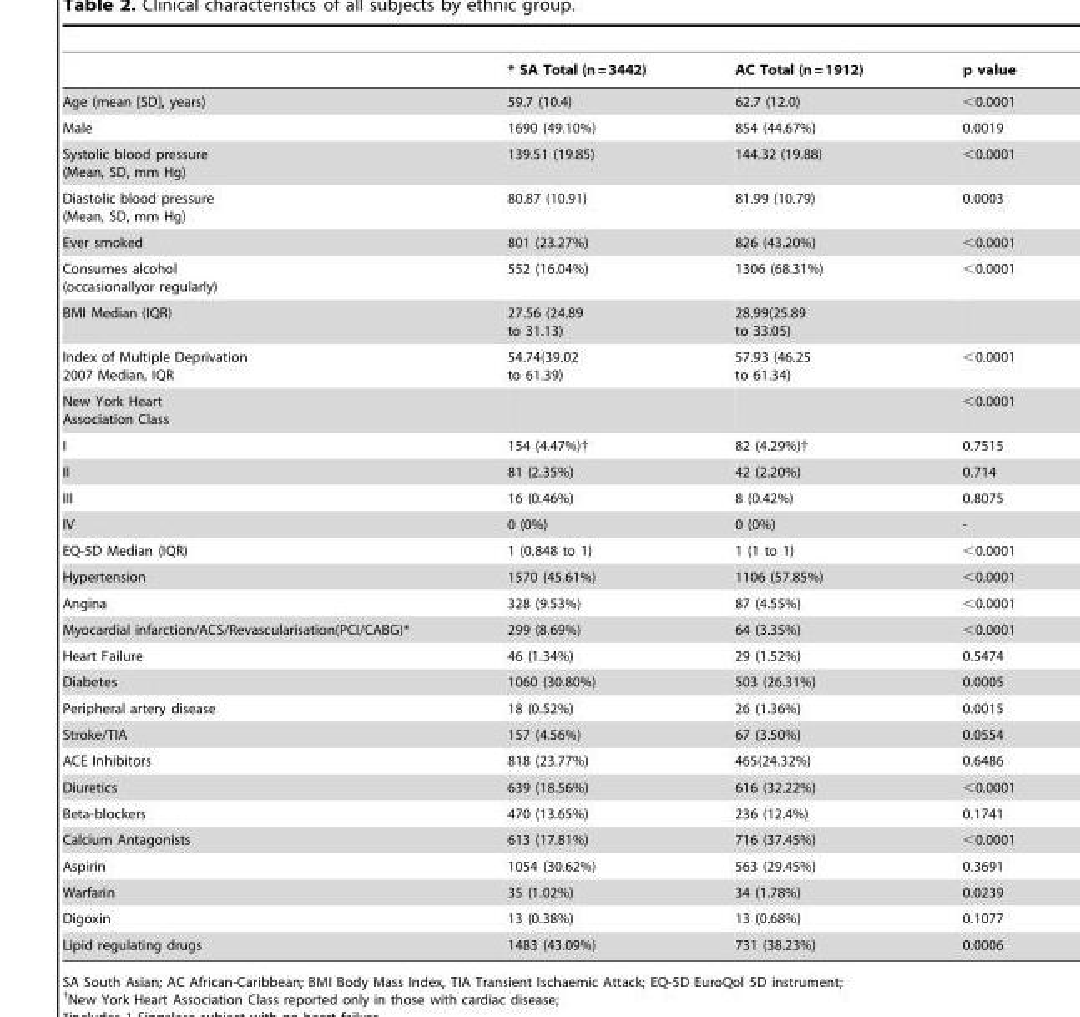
<table><thead><tr><td></td><td>* SA Total (n=3442)</td><td>AC Total (n=1912)</td><td>p value</td></tr></thead><tbody><tr><td>Age (mean [SD], years)</td><td>59.7 (10.4)</td><td>62.7 (12.0)</td><td>&lt;0.0001</td></tr><tr><td>Male</td><td>1690 (49.10%)</td><td>854 (44.67%)</td><td>0.0019</td></tr><tr><td>Systolic blood pressure (Mean, SD, mm Hg)</td><td>139.51 (19.85)</td><td>144.32 (19.88)</td><td>&lt;0.0001</td></tr><tr><td>Diastolic blood pressure (Mean, SD, mm Hg)</td><td>80.87 (10.91)</td><td>81.99 (10.79)</td><td>0.0003</td></tr><tr><td>Ever smoked</td><td>801 (23.27%)</td><td>826 (43.20%)</td><td>&lt;0.0001</td></tr><tr><td>Consumes alcohol (occasionallyor regularly)</td><td>552 (16.04%)</td><td>1306 (68.31%)</td><td>&lt;0.0001</td></tr><tr><td>BMI Median (IQR)</td><td>27.56 (24.89 to 31.13)</td><td>28.99(25.89 to 33.05)</td><td></td></tr><tr><td>Index of Multiple Deprivation 2007 Median, IQR</td><td>54.74(39.02 to 61.39)</td><td>57.93 (46.25 to 61.34)</td><td>&lt;0.0001</td></tr><tr><td>New York Heart Association Class</td><td></td><td></td><td>&lt;0.0001</td></tr><tr><td>I</td><td>154 (4.47%)†</td><td>82 (4.29%)†</td><td>0.7515</td></tr><tr><td>II</td><td>81 (2.35%)</td><td>42 (2.20%)</td><td>0.714</td></tr><tr><td>III</td><td>16 (0.46%)</td><td>8 (0.42%)</td><td>0.8075</td></tr><tr><td>IV</td><td>0 (0%)</td><td>0 (0%)</td><td>-</td></tr><tr><td>EQ-5D Median (IQR)</td><td>1 (0.848 to 1)</td><td>1 (1 to 1)</td><td>&lt;0.0001</td></tr><tr><td>Hypertension</td><td>1570 (45.61%)</td><td>1106 (57.85%)</td><td>&lt;0.0001</td></tr><tr><td>Angina</td><td>328 (9.53%)</td><td>87 (4.55%)</td><td>&lt;0.0001</td></tr><tr><td>Myocardial infarction/ACS/Revascularisation(PCI/CABG)*</td><td>299 (8.69%)</td><td>64 (3.35%)</td><td>&lt;0.0001</td></tr><tr><td>Heart Failure</td><td>46 (1.34%)</td><td>29 (1.52%)</td><td>0.5474</td></tr><tr><td>Diabetes</td><td>1060 (30.80%)</td><td>503 (26.31%)</td><td>0.0005</td></tr><tr><td>Peripheral artery disease</td><td>18 (0.52%)</td><td>26 (1.36%)</td><td>0.0015</td></tr><tr><td>Stroke/TIA</td><td>157 (4.56%)</td><td>67 (3.50%)</td><td>0.0554</td></tr><tr><td>ACE Inhibitors</td><td>818 (23.77%)</td><td>465(24.32%)</td><td>0.6486</td></tr><tr><td>Diuretics</td><td>639 (18.56%)</td><td>616 (32.22%)</td><td>&lt;0.0001</td></tr><tr><td>Beta-blockers</td><td>470 (13.65%)</td><td>236 (12.4%)</td><td>0.1741</td></tr><tr><td>Calcium Antagonists</td><td>613 (17.81%)</td><td>716 (37.45%)</td><td>&lt;0.0001</td></tr><tr><td>Aspirin</td><td>1054 (30.62%)</td><td>563 (29.45%)</td><td>0.3691</td></tr><tr><td>Warfarin</td><td>35 (1.02%)</td><td>34 (1.78%)</td><td>0.0239</td></tr><tr><td>Digoxin</td><td>13 (0.38%)</td><td>13 (0.68%)</td><td>0.1077</td></tr><tr><td>Lipid regulating drugs</td><td>1483 (43.09%)</td><td>731 (38.23%)</td><td>0.0006</td></tr></tbody></table>